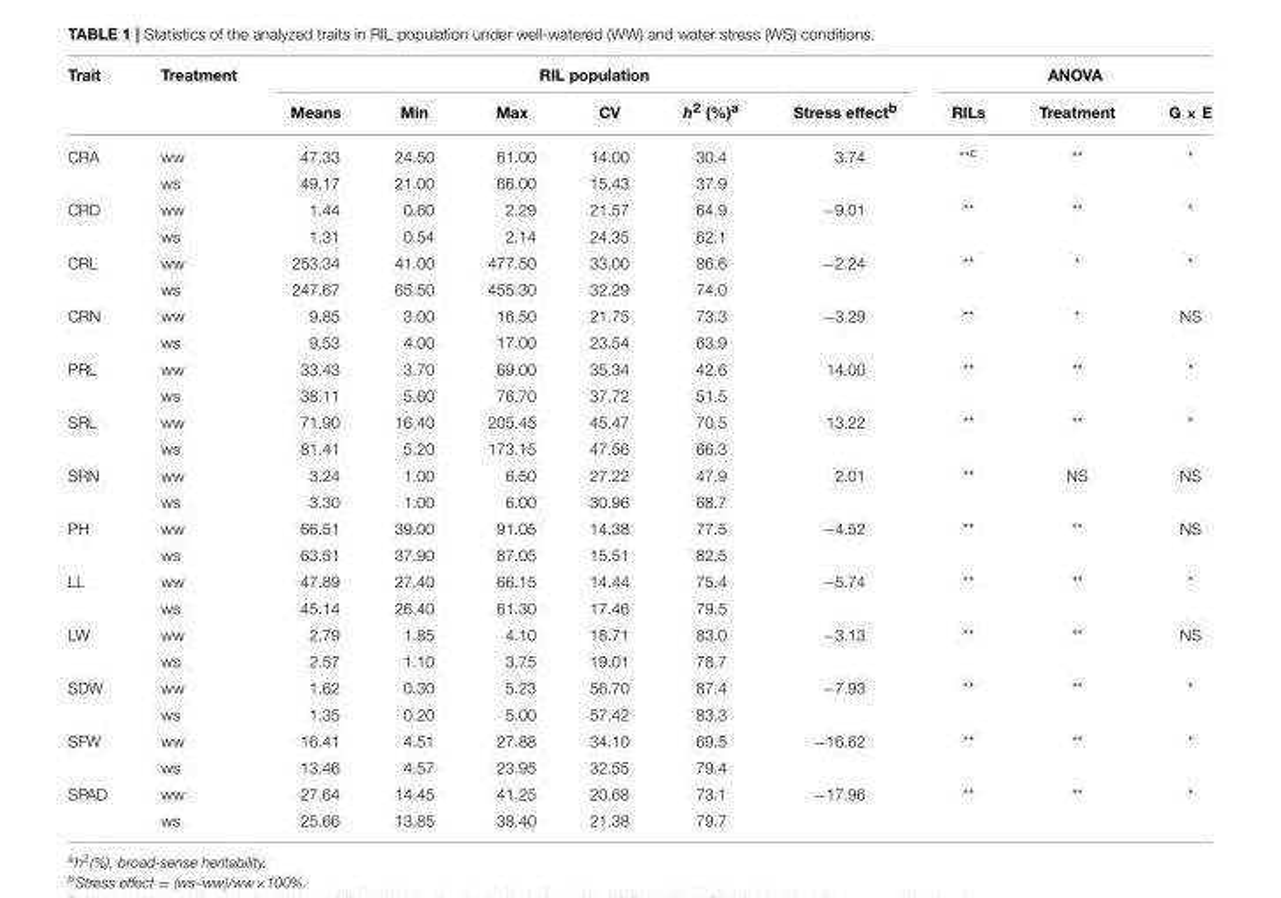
<table><thead><tr><td rowspan="2">Trait</td><td rowspan="2">Treatment</td><td colspan="6">RIL population</td><td colspan="3">ANOVA</td></tr><tr><td>Means</td><td>Min</td><td>Max</td><td>CV</td><td>h<sup>2</sup> (%)<sup>a</sup></td><td>Stress effect<sup>b</sup></td><td>RILs</td><td>Treatment</td><td>G × E</td></tr></thead><tbody><tr><td rowspan="2">CRA</td><td>ww</td><td>47.33</td><td>24.50</td><td>61.00</td><td>14.00</td><td>30.4</td><td>3.74</td><td><sup>**c</sup></td><td>**</td><td>*</td></tr><tr><td>ws</td><td>49.17</td><td>21.00</td><td>66.00</td><td>15.43</td><td>37.9</td><td></td><td></td><td></td><td></td></tr><tr><td rowspan="2">CRD</td><td>ww</td><td>1.44</td><td>0.60</td><td>2.29</td><td>21.57</td><td>64.9</td><td>−9.01</td><td>**</td><td>**</td><td>*</td></tr><tr><td>ws</td><td>1.31</td><td>0.54</td><td>2.14</td><td>24.35</td><td>62.1</td><td></td><td></td><td></td><td></td></tr><tr><td rowspan="2">CRL</td><td>ww</td><td>253.34</td><td>41.00</td><td>477.50</td><td>33.00</td><td>86.6</td><td>−2.24</td><td>**</td><td>*</td><td>*</td></tr><tr><td>ws</td><td>247.67</td><td>65.50</td><td>455.30</td><td>32.29</td><td>74.0</td><td></td><td></td><td></td><td></td></tr><tr><td rowspan="2">CRN</td><td>ww</td><td>9.85</td><td>3.00</td><td>16.50</td><td>21.75</td><td>73.3</td><td>−3.29</td><td>**</td><td>*</td><td>NS</td></tr><tr><td>ws</td><td>9.53</td><td>4.00</td><td>17.00</td><td>23.54</td><td>63.9</td><td></td><td></td><td></td><td></td></tr><tr><td rowspan="2">PRL</td><td>ww</td><td>33.43</td><td>3.70</td><td>69.00</td><td>35.34</td><td>42.6</td><td>14.00</td><td>**</td><td>**</td><td>*</td></tr><tr><td>ws</td><td>38.11</td><td>5.60</td><td>76.70</td><td>37.72</td><td>51.5</td><td></td><td></td><td></td><td></td></tr><tr><td rowspan="2">SRL</td><td>ww</td><td>71.90</td><td>16.40</td><td>205.45</td><td>45.47</td><td>70.5</td><td>13.22</td><td>**</td><td>**</td><td>*</td></tr><tr><td>ws</td><td>81.41</td><td>5.20</td><td>173.15</td><td>47.56</td><td>66.3</td><td></td><td></td><td></td><td></td></tr><tr><td rowspan="2">SRN</td><td>ww</td><td>3.24</td><td>1.00</td><td>6.50</td><td>27.22</td><td>47.9</td><td>2.01</td><td>**</td><td>NS</td><td>NS</td></tr><tr><td>ws</td><td>3.30</td><td>1.00</td><td>6.00</td><td>30.96</td><td>68.7</td><td></td><td></td><td></td><td></td></tr><tr><td rowspan="2">PH</td><td>ww</td><td>66.51</td><td>39.00</td><td>91.05</td><td>14.38</td><td>77.5</td><td>−4.52</td><td>**</td><td>**</td><td>NS</td></tr><tr><td>ws</td><td>63.51</td><td>37.90</td><td>87.05</td><td>15.51</td><td>82.5</td><td></td><td></td><td></td><td></td></tr><tr><td rowspan="2">LL</td><td>ww</td><td>47.89</td><td>27.40</td><td>66.15</td><td>14.44</td><td>75.4</td><td>−5.74</td><td>**</td><td>**</td><td>*</td></tr><tr><td>ws</td><td>45.14</td><td>26.40</td><td>61.30</td><td>17.46</td><td>79.5</td><td></td><td></td><td></td><td></td></tr><tr><td rowspan="2">LW</td><td>ww</td><td>2.79</td><td>1.85</td><td>4.10</td><td>18.71</td><td>83.0</td><td>−3.13</td><td>**</td><td>**</td><td>NS</td></tr><tr><td>ws</td><td>2.57</td><td>1.10</td><td>3.75</td><td>19.01</td><td>78.7</td><td></td><td></td><td></td><td></td></tr><tr><td rowspan="2">SDW</td><td>ww</td><td>1.62</td><td>0.30</td><td>5.23</td><td>56.70</td><td>87.4</td><td>−7.93</td><td>**</td><td>**</td><td>*</td></tr><tr><td>ws</td><td>1.35</td><td>0.20</td><td>5.00</td><td>57.42</td><td>83.3</td><td></td><td></td><td></td><td></td></tr><tr><td rowspan="2">SFW</td><td>ww</td><td>16.41</td><td>4.51</td><td>27.88</td><td>34.10</td><td>69.5</td><td>−16.62</td><td>**</td><td>**</td><td>*</td></tr><tr><td>ws</td><td>13.46</td><td>4.57</td><td>23.95</td><td>32.55</td><td>79.4</td><td></td><td></td><td></td><td></td></tr><tr><td rowspan="2">SPAD</td><td>ww</td><td>27.64</td><td>14.45</td><td>41.25</td><td>20.68</td><td>73.1</td><td>−17.96</td><td>**</td><td>**</td><td>*</td></tr><tr><td>ws</td><td>25.66</td><td>13.85</td><td>38.40</td><td>21.38</td><td>79.7</td><td></td><td></td><td></td><td></td></tr></tbody></table>